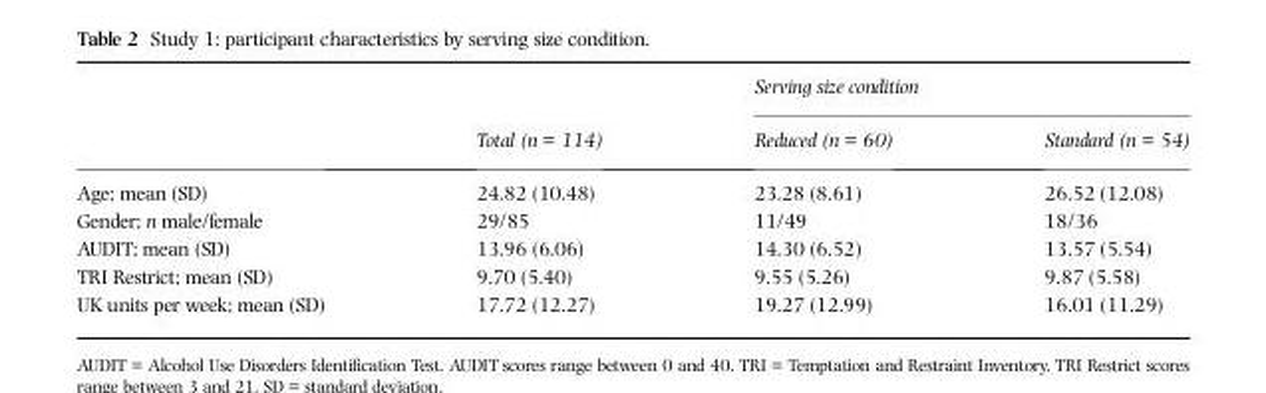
<table><thead><tr><td rowspan="2"></td><td rowspan="2">Total (n = 114)</td><td colspan="2">Serving size condition</td></tr><tr><td>Reduced (n = 60)</td><td>Standard (n = 54)</td></tr></thead><tbody><tr><td>Age; mean (SD)</td><td>24.82 (10.48)</td><td>23.28 (8.61)</td><td>26.52 (12.08)</td></tr><tr><td>Gender; n male/female</td><td>29/85</td><td>11/49</td><td>18/36</td></tr><tr><td>AUDIT; mean (SD)</td><td>13.96 (6.06)</td><td>14.30 (6.52)</td><td>13.57 (5.54)</td></tr><tr><td>TRI Restrict; mean (SD)</td><td>9.70 (5.40)</td><td>9.55 (5.26)</td><td>9.87 (5.58)</td></tr><tr><td>UK units per week; mean (SD)</td><td>17.72 (12.27)</td><td>19.27 (12.99)</td><td>16.01 (11.29)</td></tr></tbody></table>